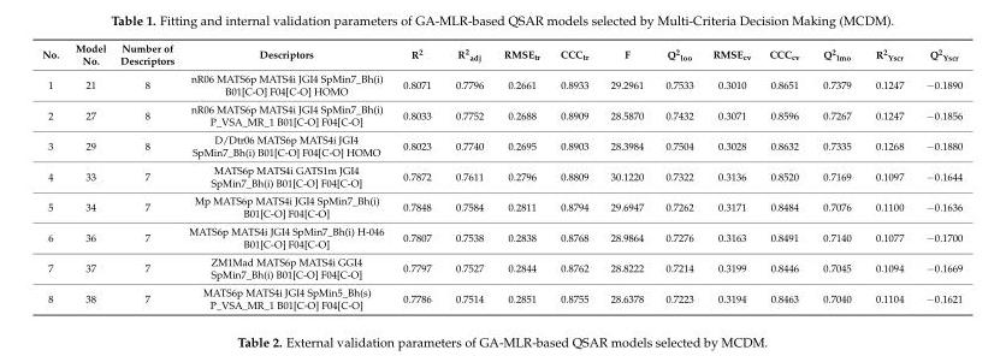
<table><thead><tr><td>No.</td><td>Model No.</td><td>Number of Descriptors</td><td>Descriptors</td><td>R<sup>2</sup></td><td>R<sup>2</sup><sub>adj</sub></td><td>RMSE<sub>tr</sub></td><td>CCC<sub>tr</sub></td><td>F</td><td>Q<sup>2</sup><sub>loo</sub></td><td>RMSE<sub>cv</sub></td><td>CCC<sub>cv</sub></td><td>Q<sup>2</sup><sub>lmo</sub></td><td>R<sup>2</sup><sub>Yscr</sub></td><td>Q<sup>2</sup><sub>Yscr</sub></td></tr></thead><tbody><tr><td>1</td><td>21</td><td>8</td><td>nR06 MATS6p MATS4i JGI4 SpMin7_Bh(i) B01[C-O] F04[C-O] HOMO</td><td>0.8071</td><td>0.7796</td><td>0.2661</td><td>0.8933</td><td>29.2961</td><td>0.7533</td><td>0.3010</td><td>0.8651</td><td>0.7379</td><td>0.1247</td><td>−0.1890</td></tr><tr><td>2</td><td>27</td><td>8</td><td>nR06 MATS6p MATS4i JGI4 SpMin7_Bh(i) P_VSA_MR_1 B01[C-O] F04[C-O]</td><td>0.8033</td><td>0.7752</td><td>0.2688</td><td>0.8909</td><td>28.5870</td><td>0.7432</td><td>0.3071</td><td>0.8596</td><td>0.7267</td><td>0.1247</td><td>−0.1856</td></tr><tr><td>3</td><td>29</td><td>8</td><td>D/Dtr06 MATS6p MATS4i JGI4 SpMin7_Bh(i) B01[C-O] F04[C-O] HOMO</td><td>0.8023</td><td>0.7740</td><td>0.2695</td><td>0.8903</td><td>28.3984</td><td>0.7504</td><td>0.3028</td><td>0.8632</td><td>0.7335</td><td>0.1268</td><td>−0.1880</td></tr><tr><td>4</td><td>33</td><td>7</td><td>MATS6p MATS4i GATS1m JGI4 SpMin7_Bh(i) B01[C-O] F04[C-O]</td><td>0.7872</td><td>0.7611</td><td>0.2796</td><td>0.8809</td><td>30.1220</td><td>0.7322</td><td>0.3136</td><td>0.8520</td><td>0.7169</td><td>0.1097</td><td>−0.1644</td></tr><tr><td>5</td><td>34</td><td>7</td><td>Mp MATS6p MATS4i JGI4 SpMin7_Bh(i) B01[C-O] F04[C-O]</td><td>0.7848</td><td>0.7584</td><td>0.2811</td><td>0.8794</td><td>29.6947</td><td>0.7262</td><td>0.3171</td><td>0.8484</td><td>0.7076</td><td>0.1100</td><td>−0.1636</td></tr><tr><td>6</td><td>36</td><td>7</td><td>MATS6p MATS4i JGI4 SpMin7_Bh(i) H-046 B01[C-O] F04[C-O]</td><td>0.7807</td><td>0.7538</td><td>0.2838</td><td>0.8768</td><td>28.9864</td><td>0.7276</td><td>0.3163</td><td>0.8491</td><td>0.7140</td><td>0.1077</td><td>−0.1700</td></tr><tr><td>7</td><td>37</td><td>7</td><td>ZM1Mad MATS6p MATS4i GGI4 SpMin7_Bh(i) B01[C-O] F04[C-O]</td><td>0.7797</td><td>0.7527</td><td>0.2844</td><td>0.8762</td><td>28.8222</td><td>0.7214</td><td>0.3199</td><td>0.8446</td><td>0.7045</td><td>0.1094</td><td>−0.1669</td></tr><tr><td>8</td><td>38</td><td>7</td><td>MATS6p MATS4i JGI4 SpMin5_Bh(s) P_VSA_MR_1 B01[C-O] F04[C-O]</td><td>0.7786</td><td>0.7514</td><td>0.2851</td><td>0.8755</td><td>28.6378</td><td>0.7223</td><td>0.3194</td><td>0.8463</td><td>0.7040</td><td>0.1104</td><td>−0.1621</td></tr></tbody></table>